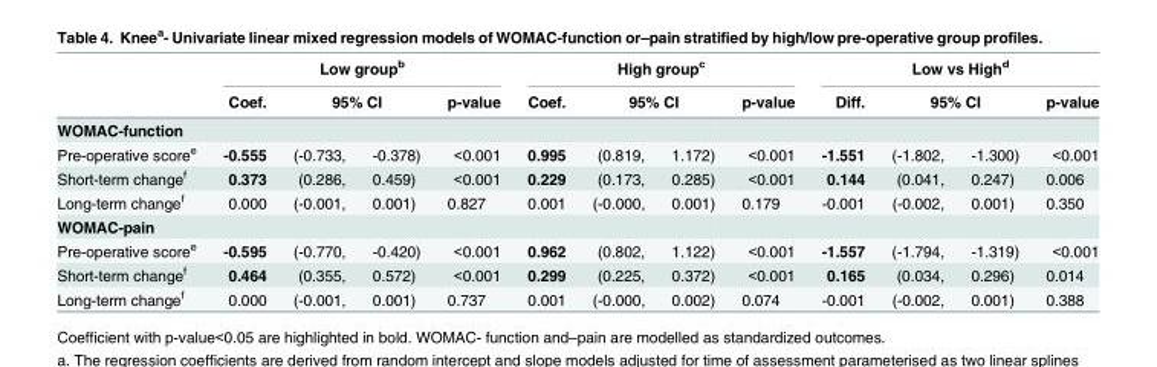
<table><thead><tr><td rowspan="3">WOMAC-function</td><td colspan="4">Low group<sup>b</sup></td><td colspan="4">High group<sup>c</sup></td><td colspan="4">Low vs High<sup>d</sup></td></tr><tr><td rowspan="2">Coef.</td><td colspan="2">95% CI</td><td rowspan="2">p-value</td><td rowspan="2">Coef.</td><td colspan="2">95% CI</td><td rowspan="2">p-value</td><td rowspan="2">Diff.</td><td colspan="2">95% CI</td><td rowspan="2">p-value</td></tr><tr><td></td><td></td><td></td><td></td><td></td><td></td></tr></thead><tbody><tr><td>Pre-operative score<sup>e</sup></td><td>-0.555</td><td>(-0.733,</td><td>-0.378)</td><td>&lt;0.001</td><td>0.995</td><td>(0.819,</td><td>1.172)</td><td>&lt;0.001</td><td>-1.551</td><td>(-1.802,</td><td>-1.300)</td><td>&lt;0.001</td></tr><tr><td>Short-term change<sup>f</sup></td><td>0.373</td><td>(0.286,</td><td>0.459)</td><td>&lt;0.001</td><td>0.229</td><td>(0.173,</td><td>0.285)</td><td>&lt;0.001</td><td>0.144</td><td>(0.041,</td><td>0.247)</td><td>0.006</td></tr><tr><td>Long-term change<sup>f</sup></td><td>0.000</td><td>(-0.001,</td><td>0.001)</td><td>0.827</td><td>0.001</td><td>(-0.000,</td><td>0.001)</td><td>0.179</td><td>-0.001</td><td>(-0.002,</td><td>0.001)</td><td>0.350</td></tr><tr><td colspan="13">WOMAC-pain</td></tr><tr><td>Pre-operative score<sup>e</sup></td><td>-0.595</td><td>(-0.770,</td><td>-0.420)</td><td>&lt;0.001</td><td>0.962</td><td>(0.802,</td><td>1.122)</td><td>&lt;0.001</td><td>-1.557</td><td>(-1.794,</td><td>-1.319)</td><td>&lt;0.001</td></tr><tr><td>Short-term change<sup>f</sup></td><td>0.464</td><td>(0.355,</td><td>0.572)</td><td>&lt;0.001</td><td>0.299</td><td>(0.225,</td><td>0.372)</td><td>&lt;0.001</td><td>0.165</td><td>(0.034,</td><td>0.296)</td><td>0.014</td></tr><tr><td>Long-term change<sup>f</sup></td><td>0.000</td><td>(-0.001,</td><td>0.001)</td><td>0.737</td><td>0.001</td><td>(-0.000,</td><td>0.002)</td><td>0.074</td><td>-0.001</td><td>(-0.002,</td><td>0.001)</td><td>0.388</td></tr></tbody></table>